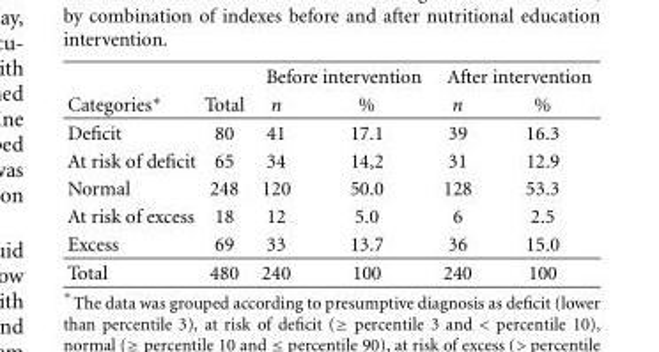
<table><thead><tr><td rowspan="2">Categories∗</td><td rowspan="2">Total</td><td colspan="2">Before intervention</td><td colspan="2">After intervention</td></tr><tr><td>n</td><td>%</td><td>n</td><td>%</td></tr></thead><tbody><tr><td>Deficit</td><td>80</td><td>41</td><td>17.1</td><td>39</td><td>16.3</td></tr><tr><td>At risk of deficit</td><td>65</td><td>34</td><td>14,2</td><td>31</td><td>12.9</td></tr><tr><td>Normal</td><td>248</td><td>120</td><td>50.0</td><td>128</td><td>53.3</td></tr><tr><td>At risk of excess</td><td>18</td><td>12</td><td>5.0</td><td>6</td><td>2.5</td></tr><tr><td>Excess</td><td>69</td><td>33</td><td>13.7</td><td>36</td><td>15.0</td></tr><tr><td>Total</td><td>480</td><td>240</td><td>100</td><td>240</td><td>100</td></tr></tbody></table>